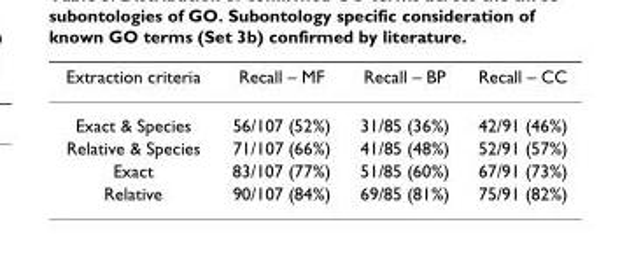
<table><thead><tr><td>Extraction criteria</td><td>Recall – MF</td><td>Recall – BP</td><td>Recall – CC</td></tr></thead><tbody><tr><td>Exact &amp; Species</td><td>56/107 (52%)</td><td>31/85 (36%)</td><td>42/91 (46%)</td></tr><tr><td>Relative &amp; Species</td><td>71/107 (66%)</td><td>41/85 (48%)</td><td>52/91 (57%)</td></tr><tr><td>Exact</td><td>83/107 (77%)</td><td>51/85 (60%)</td><td>67/91 (73%)</td></tr><tr><td>Relative</td><td>90/107 (84%)</td><td>69/85 (81%)</td><td>75/91 (82%)</td></tr></tbody></table>